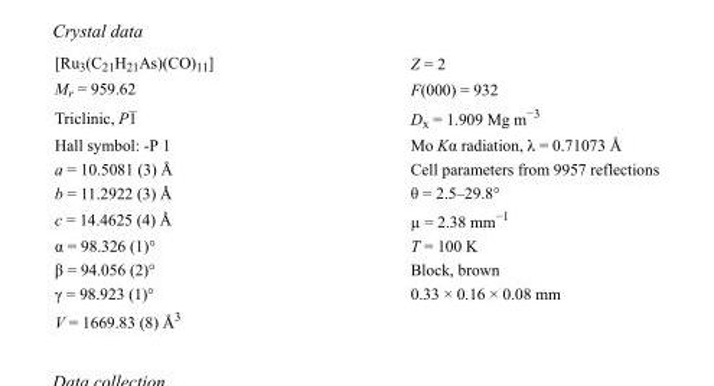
<table><tbody><tr><td>[Ru<sub>3</sub>(C<sub>21</sub>H<sub>21</sub>As)(CO)<sub>11</sub>]</td><td>Z = 2</td></tr><tr><td>M<sub>r</sub> = 959.62</td><td>F(000) = 932</td></tr><tr><td>Triclinic, P1</td><td>D<sub>x</sub> = 1.909 Mg m<sup>−3</sup></td></tr><tr><td>Hall symbol: -P 1</td><td>Mo Kα radiation, λ = 0.71073 Å</td></tr><tr><td>a = 10.5081 (3) Å</td><td>Cell parameters from 9957 reflections</td></tr><tr><td>b = 11.2922 (3) Å</td><td>θ = 2.5–29.8°</td></tr><tr><td>c = 14.4625 (4) Å</td><td>µ = 2.38 mm<sup>−1</sup></td></tr><tr><td>α = 98.326 (1)°</td><td>T = 100 K</td></tr><tr><td>β = 94.056 (2)°</td><td>Block, brown</td></tr><tr><td>γ = 98.923 (1)°</td><td>0.33 × 0.16 × 0.08 mm</td></tr><tr><td>V = 1669.83 (8) Å<sup>3</sup></td><td></td></tr></tbody></table>